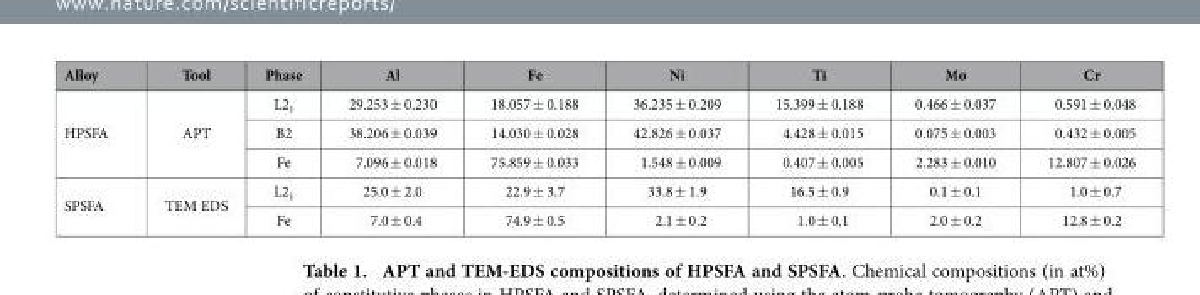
<table><thead><tr><td>Alloy</td><td>Tool</td><td>Phase</td><td>Al</td><td>Fe</td><td>Ni</td><td>Ti</td><td>Mo</td><td>Cr</td></tr></thead><tbody><tr><td rowspan="3">HPSFA</td><td rowspan="3">APT</td><td>L2<sub>1</sub></td><td>29.253 ± 0.230</td><td>18.057 ± 0.188</td><td>36.235 ± 0.209</td><td>15.399 ± 0.188</td><td>0.466 ± 0.037</td><td>0.591 ± 0.048</td></tr><tr><td>B2</td><td>38.206 ± 0.039</td><td>14.030 ± 0.028</td><td>42.826 ± 0.037</td><td>4.428 ± 0.015</td><td>0.075 ± 0.003</td><td>0.432 ± 0.005</td></tr><tr><td>Fe</td><td>7.096 ± 0.018</td><td>75.859 ± 0.033</td><td>1.548 ± 0.009</td><td>0.407 ± 0.005</td><td>2.283 ± 0.010</td><td>12.807 ± 0.026</td></tr><tr><td rowspan="2">SPSFA</td><td rowspan="2">TEM EDS</td><td>L2<sub>1</sub></td><td>25.0 ± 2.0</td><td>22.9 ± 3.7</td><td>33.8 ± 1.9</td><td>16.5 ± 0.9</td><td>0.1 ± 0.1</td><td>1.0 ± 0.7</td></tr><tr><td>Fe</td><td>7.0 ± 0.4</td><td>74.9 ± 0.5</td><td>2.1 ± 0.2</td><td>1.0 ± 0.1</td><td>2.0 ± 0.2</td><td>12.8 ± 0.2</td></tr></tbody></table>